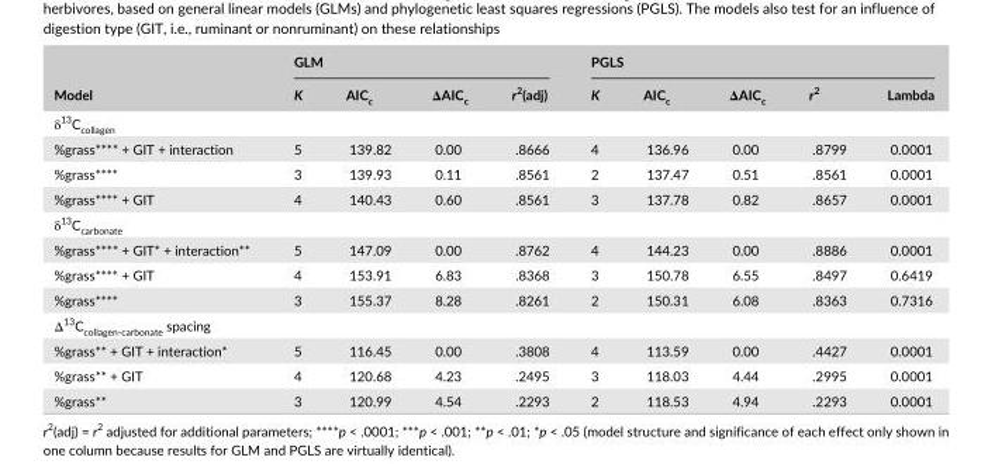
<table><thead><tr><td rowspan="2">Model</td><td colspan="4">GLM</td><td colspan="5">PGLS</td></tr><tr><td>K</td><td>AIC<sub>c</sub></td><td>ΔAIC<sub>c</sub></td><td>r<sup>2</sup>(adj)</td><td>K</td><td>AIC<sub>c</sub></td><td>ΔAIC<sub>c</sub></td><td>r<sup>2</sup></td><td>Lambda</td></tr></thead><tbody><tr><td colspan="10">δ<sup>13</sup>C<sub>collagen</sub></td></tr><tr><td>%grass**** + GIT + interaction</td><td>5</td><td>139.82</td><td>0.00</td><td>.8666</td><td>4</td><td>136.96</td><td>0.00</td><td>.8799</td><td>0.0001</td></tr><tr><td>%grass****</td><td>3</td><td>139.93</td><td>0.11</td><td>.8561</td><td>2</td><td>137.47</td><td>0.51</td><td>.8561</td><td>0.0001</td></tr><tr><td>%grass**** + GIT</td><td>4</td><td>140.43</td><td>0.60</td><td>.8561</td><td>3</td><td>137.78</td><td>0.82</td><td>.8657</td><td>0.0001</td></tr><tr><td colspan="10">δ<sup>13</sup>C<sub>carbonate</sub></td></tr><tr><td>%grass**** + GIT* + interaction**</td><td>5</td><td>147.09</td><td>0.00</td><td>.8762</td><td>4</td><td>144.23</td><td>0.00</td><td>.8886</td><td>0.0001</td></tr><tr><td>%grass**** + GIT</td><td>4</td><td>153.91</td><td>6.83</td><td>.8368</td><td>3</td><td>150.78</td><td>6.55</td><td>.8497</td><td>0.6419</td></tr><tr><td>%grass****</td><td>3</td><td>155.37</td><td>8.28</td><td>.8261</td><td>2</td><td>150.31</td><td>6.08</td><td>.8363</td><td>0.7316</td></tr><tr><td colspan="10">Δ<sup>13</sup>C<sub>collagen-carbonate</sub> spacing</td></tr><tr><td>%grass** + GIT + interaction*</td><td>5</td><td>116.45</td><td>0.00</td><td>.3808</td><td>4</td><td>113.59</td><td>0.00</td><td>.4427</td><td>0.0001</td></tr><tr><td>%grass** + GIT</td><td>4</td><td>120.68</td><td>4.23</td><td>.2495</td><td>3</td><td>118.03</td><td>4.44</td><td>.2995</td><td>0.0001</td></tr><tr><td>%grass**</td><td>3</td><td>120.99</td><td>4.54</td><td>.2293</td><td>2</td><td>118.53</td><td>4.94</td><td>.2293</td><td>0.0001</td></tr></tbody></table>